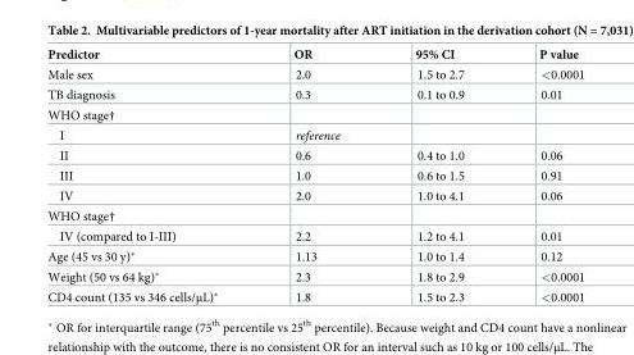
<table><thead><tr><td>Predictor</td><td>OR</td><td>95% CI</td><td>P value</td></tr></thead><tbody><tr><td>Male sex</td><td>2.0</td><td>1.5 to 2.7</td><td>&lt;0.0001</td></tr><tr><td>TB diagnosis</td><td>0.3</td><td>0.1 to 0.9</td><td>0.01</td></tr><tr><td colspan="4">WHO stage†</td></tr><tr><td>I</td><td>reference</td><td></td><td></td></tr><tr><td>II</td><td>0.6</td><td>0.4 to 1.0</td><td>0.06</td></tr><tr><td>III</td><td>1.0</td><td>0.6 to 1.5</td><td>0.91</td></tr><tr><td>IV</td><td>2.0</td><td>1.0 to 4.1</td><td>0.06</td></tr><tr><td colspan="4">WHO stage†</td></tr><tr><td>IV (compared to I-III)</td><td>2.2</td><td>1.2 to 4.1</td><td>0.01</td></tr><tr><td>Age (45 vs 30 y)*</td><td>1.13</td><td>1.0 to 1.4</td><td>0.12</td></tr><tr><td>Weight (50 vs 64 kg)*</td><td>2.3</td><td>1.8 to 2.9</td><td>&lt;0.0001</td></tr><tr><td>CD4 count (135 vs 346 cells/μL)*</td><td>1.8</td><td>1.5 to 2.3</td><td>&lt;0.0001</td></tr></tbody></table>